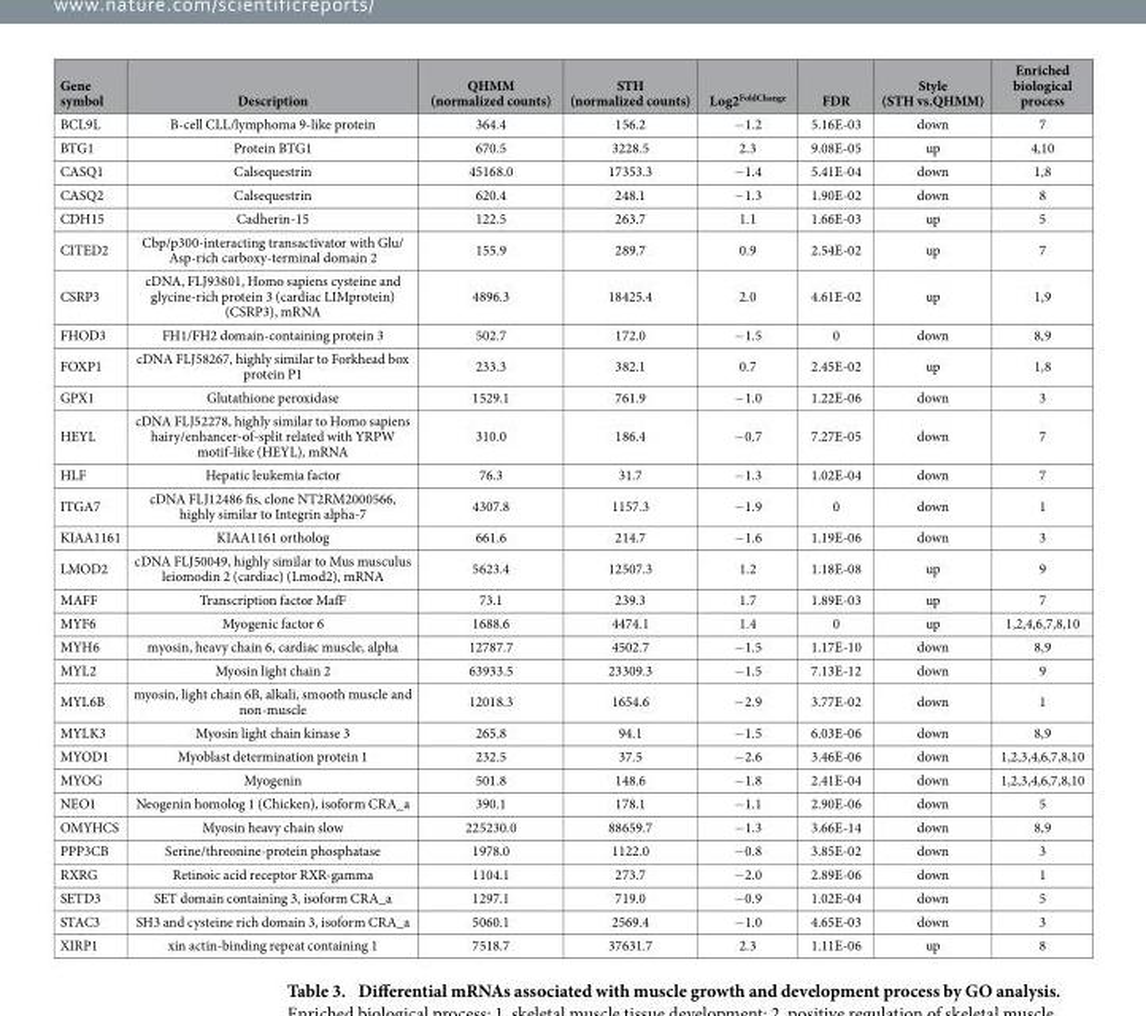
<table><thead><tr><td>Gene symbol</td><td>Description</td><td>QHMM (normalized counts)</td><td>STH (normalized counts)</td><td>Log2<sup>FoldChange</sup></td><td>FDR</td><td>Style (STH vs.QHMM)</td><td>Enriched biological process</td></tr></thead><tbody><tr><td>BCL9L</td><td>B-cell CLL/lymphoma 9-like protein</td><td>364.4</td><td>156.2</td><td>− 1.2</td><td>5.16E-03</td><td>down</td><td>7</td></tr><tr><td>BTG1</td><td>Protein BTG1</td><td>670.5</td><td>3228.5</td><td>2.3</td><td>9.08E-05</td><td>up</td><td>4,10</td></tr><tr><td>CASQ1</td><td>Calsequestrin</td><td>45168.0</td><td>17353.3</td><td>− 1.4</td><td>5.41E-04</td><td>down</td><td>1,8</td></tr><tr><td>CASQ2</td><td>Calsequestrin</td><td>620.4</td><td>248.1</td><td>− 1.3</td><td>1.90E-02</td><td>down</td><td>8</td></tr><tr><td>CDH15</td><td>Cadherin-15</td><td>122.5</td><td>263.7</td><td>1.1</td><td>1.66E-03</td><td>up</td><td>5</td></tr><tr><td>CITED2</td><td>Cbp/p300-interacting transactivator with Glu/ Asp-rich carboxy-terminal domain 2</td><td>155.9</td><td>289.7</td><td>0.9</td><td>2.54E-02</td><td>up</td><td>7</td></tr><tr><td>CSRP3</td><td>cDNA, FLJ93801, Homo sapiens cysteine and glycine-rich protein 3 (cardiac LIMprotein) (CSRP3), mRNA</td><td>4896.3</td><td>18425.4</td><td>2.0</td><td>4.61E-02</td><td>up</td><td>1,9</td></tr><tr><td>FHOD3</td><td>FH1/FH2 domain-containing protein 3</td><td>502.7</td><td>172.0</td><td>− 1.5</td><td>0</td><td>down</td><td>8,9</td></tr><tr><td>FOXP1</td><td>cDNA FLJ58267, highly similar to Forkhead box protein P1</td><td>233.3</td><td>382.1</td><td>0.7</td><td>2.45E-02</td><td>up</td><td>1,8</td></tr><tr><td>GPX1</td><td>Glutathione peroxidase</td><td>1529.1</td><td>761.9</td><td>− 1.0</td><td>1.22E-06</td><td>down</td><td>3</td></tr><tr><td>HEYL</td><td>cDNA FLJ52278, highly similar to Homo sapiens hairy/enhancer-of-split related with YRPW motif-like (HEYL), mRNA</td><td>310.0</td><td>186.4</td><td>− 0.7</td><td>7.27E-05</td><td>down</td><td>7</td></tr><tr><td>HLF</td><td>Hepatic leukemia factor</td><td>76.3</td><td>31.7</td><td>− 1.3</td><td>1.02E-04</td><td>down</td><td>7</td></tr><tr><td>ITGA7</td><td>cDNA FLJ12486 fis, clone NT2RM2000566, highly similar to Integrin alpha-7</td><td>4307.8</td><td>1157.3</td><td>− 1.9</td><td>0</td><td>down</td><td>1</td></tr><tr><td>KIAA1161</td><td>KIAA1161 ortholog</td><td>661.6</td><td>214.7</td><td>− 1.6</td><td>1.19E-06</td><td>down</td><td>3</td></tr><tr><td>LMOD2</td><td>cDNA FLJ50049, highly similar to Mus musculus leiomodin 2 (cardiac) (Lmod2), mRNA</td><td>5623.4</td><td>12507.3</td><td>1.2</td><td>1.18E-08</td><td>up</td><td>9</td></tr><tr><td>MAFF</td><td>Transcription factor MafF</td><td>73.1</td><td>239.3</td><td>1.7</td><td>1.89E-03</td><td>up</td><td>7</td></tr><tr><td>MYF6</td><td>Myogenic factor 6</td><td>1688.6</td><td>4474.1</td><td>1.4</td><td>0</td><td>up</td><td>1,2,4,6,7,8,10</td></tr><tr><td>MYH6</td><td>myosin, heavy chain 6, cardiac muscle, alpha</td><td>12787.7</td><td>4502.7</td><td>− 1.5</td><td>1.17E-10</td><td>down</td><td>8,9</td></tr><tr><td>MYL2</td><td>Myosin light chain 2</td><td>63933.5</td><td>23309.3</td><td>− 1.5</td><td>7.13E-12</td><td>down</td><td>9</td></tr><tr><td>MYL6B</td><td>myosin, light chain 6B, alkali, smooth muscle and non-muscle</td><td>12018.3</td><td>1654.6</td><td>− 2.9</td><td>3.77E-02</td><td>down</td><td>1</td></tr><tr><td>MYLK3</td><td>Myosin light chain kinase 3</td><td>265.8</td><td>94.1</td><td>− 1.5</td><td>6.03E-06</td><td>down</td><td>8,9</td></tr><tr><td>MYOD1</td><td>Myoblast determination protein 1</td><td>232.5</td><td>37.5</td><td>− 2.6</td><td>3.46E-06</td><td>down</td><td>1,2,3,4,6,7,8,10</td></tr><tr><td>MYOG</td><td>Myogenin</td><td>501.8</td><td>148.6</td><td>− 1.8</td><td>2.41E-04</td><td>down</td><td>1,2,3,4,6,7,8,10</td></tr><tr><td>NEO1</td><td>Neogenin homolog 1 (Chicken), isoform CRA_a</td><td>390.1</td><td>178.1</td><td>− 1.1</td><td>2.90E-06</td><td>down</td><td>5</td></tr><tr><td>OMYHCS</td><td>Myosin heavy chain slow</td><td>225230.0</td><td>88659.7</td><td>− 1.3</td><td>3.66E-14</td><td>down</td><td>8,9</td></tr><tr><td>PPP3CB</td><td>Serine/threonine-protein phosphatase</td><td>1978.0</td><td>1122.0</td><td>− 0.8</td><td>3.85E-02</td><td>down</td><td>3</td></tr><tr><td>RXRG</td><td>Retinoic acid receptor RXR-gamma</td><td>1104.1</td><td>273.7</td><td>− 2.0</td><td>2.89E-06</td><td>down</td><td>1</td></tr><tr><td>SETD3</td><td>SET domain containing 3, isoform CRA_a</td><td>1297.1</td><td>719.0</td><td>− 0.9</td><td>1.02E-04</td><td>down</td><td>5</td></tr><tr><td>STAC3</td><td>SH3 and cysteine rich domain 3, isoform CRA_a</td><td>5060.1</td><td>2569.4</td><td>− 1.0</td><td>4.65E-03</td><td>down</td><td>3</td></tr><tr><td>XIRP1</td><td>xin actin-binding repeat containing 1</td><td>7518.7</td><td>37631.7</td><td>2.3</td><td>1.11E-06</td><td>up</td><td>8</td></tr></tbody></table>